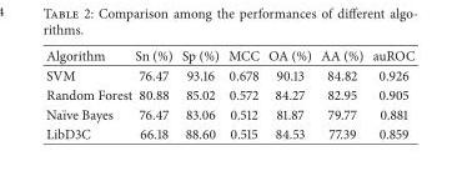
<table><thead><tr><td>Algorithm</td><td>Sn (%)</td><td>Sp (%)</td><td>MCC</td><td>OA (%)</td><td>AA (%)</td><td>auROC</td></tr></thead><tbody><tr><td>SVM</td><td>76.47</td><td>93.16</td><td>0.678</td><td>90.13</td><td>84.82</td><td>0.926</td></tr><tr><td>Random Forest</td><td>80.88</td><td>85.02</td><td>0.572</td><td>84.27</td><td>82.95</td><td>0.905</td></tr><tr><td>Na¨ıve Bayes</td><td>76.47</td><td>83.06</td><td>0.512</td><td>81.87</td><td>79.77</td><td>0.881</td></tr><tr><td>LibD3C</td><td>66.18</td><td>88.60</td><td>0.515</td><td>84.53</td><td>77.39</td><td>0.859</td></tr></tbody></table>